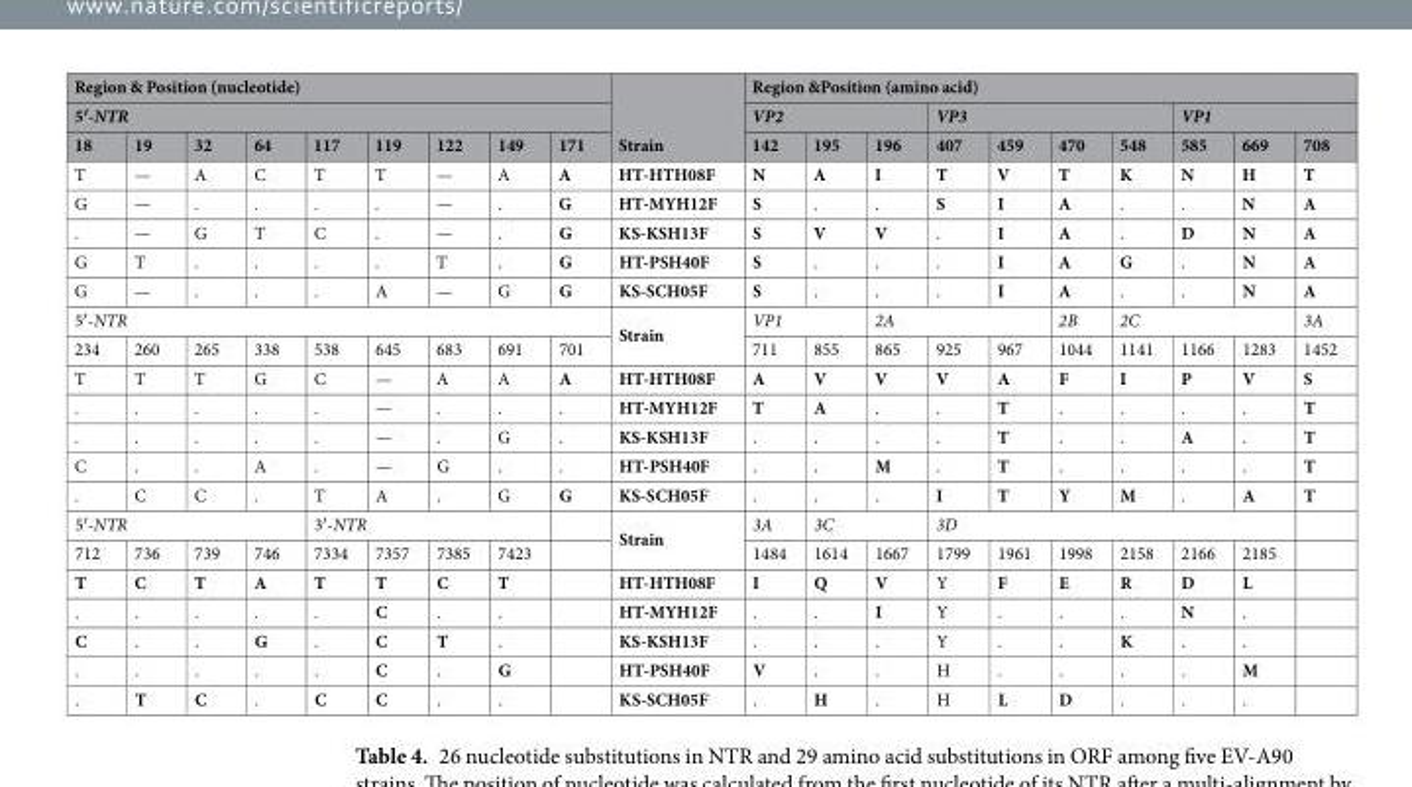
<table><thead><tr><td rowspan="2" colspan="9">Region &amp; Position (nucleotide) 5′-NTR</td><td rowspan="3">Strain</td><td colspan="10">Region &amp;Position (amino acid)</td></tr><tr><td colspan="3">VP2</td><td colspan="4">VP3</td><td colspan="3">VP1</td></tr><tr><td>18</td><td>19</td><td>32</td><td>64</td><td>117</td><td>119</td><td>122</td><td>149</td><td>171</td><td>142</td><td>195</td><td>196</td><td>407</td><td>459</td><td>470</td><td>548</td><td>585</td><td>669</td><td>708</td></tr></thead><tbody><tr><td>T</td><td>—</td><td>A</td><td>C</td><td>T</td><td>T</td><td>—</td><td>A</td><td>A</td><td>HT-HTH08F</td><td>N</td><td>A</td><td>I</td><td>T</td><td>V</td><td>T</td><td>K</td><td>N</td><td>H</td><td>T</td></tr><tr><td>G</td><td>—</td><td>.</td><td>.</td><td>.</td><td>.</td><td>—</td><td>.</td><td>G</td><td>HT-MYH12F</td><td>S</td><td>.</td><td>.</td><td>S</td><td>I</td><td>A</td><td>.</td><td>.</td><td>N</td><td>A</td></tr><tr><td>.</td><td>—</td><td>G</td><td>T</td><td>C</td><td>.</td><td>—</td><td>.</td><td>G</td><td>KS-KSH13F</td><td>S</td><td>V</td><td>V</td><td>.</td><td>I</td><td>A</td><td>.</td><td>D</td><td>N</td><td>A</td></tr><tr><td>G</td><td>T</td><td>.</td><td>.</td><td>.</td><td>.</td><td>T</td><td>.</td><td>G</td><td>HT-PSH40F</td><td>S</td><td>.</td><td>.</td><td>.</td><td>I</td><td>A</td><td>G</td><td>.</td><td>N</td><td>A</td></tr><tr><td>G</td><td>—</td><td>.</td><td>.</td><td>.</td><td>A</td><td>—</td><td>G</td><td>G</td><td>KS-SCH05F</td><td>S</td><td>.</td><td>.</td><td>.</td><td>I</td><td>A</td><td>.</td><td>.</td><td>N</td><td>A</td></tr><tr><td colspan="9">5′-NTR</td><td rowspan="2">Strain</td><td colspan="2">VP1</td><td colspan="3">2A</td><td>2B</td><td colspan="3">2C</td><td>3A</td></tr><tr><td>234</td><td>260</td><td>265</td><td>338</td><td>538</td><td>645</td><td>683</td><td>691</td><td>701</td><td>711</td><td>855</td><td>865</td><td>925</td><td>967</td><td>1044</td><td>1141</td><td>1166</td><td>1283</td><td>1452</td></tr><tr><td>T</td><td>T</td><td>T</td><td>G</td><td>C</td><td>—</td><td>A</td><td>A</td><td>A</td><td>HT-HTH08F</td><td>A</td><td>V</td><td>V</td><td>V</td><td>A</td><td>F</td><td>I</td><td>P</td><td>V</td><td>S</td></tr><tr><td>.</td><td>.</td><td>.</td><td>.</td><td>.</td><td>—</td><td>.</td><td>.</td><td>.</td><td>HT-MYH12F</td><td>T</td><td>A</td><td>.</td><td>.</td><td>T</td><td>.</td><td>.</td><td>.</td><td>.</td><td>T</td></tr><tr><td>.</td><td>.</td><td>.</td><td>.</td><td>.</td><td>—</td><td>.</td><td>G</td><td>.</td><td>KS-KSH13F</td><td>.</td><td>.</td><td>.</td><td>.</td><td>T</td><td>.</td><td>.</td><td>A</td><td>.</td><td>T</td></tr><tr><td>C</td><td>.</td><td>.</td><td>A</td><td>.</td><td>—</td><td>G</td><td>.</td><td>.</td><td>HT-PSH40F</td><td>.</td><td>.</td><td>M</td><td>.</td><td>T</td><td>.</td><td>.</td><td>.</td><td>.</td><td>T</td></tr><tr><td>.</td><td>C</td><td>C</td><td>.</td><td>T</td><td>A</td><td>.</td><td>G</td><td>G</td><td>KS-SCH05F</td><td>.</td><td>.</td><td>.</td><td>I</td><td>T</td><td>Y</td><td>M</td><td>.</td><td>A</td><td>T</td></tr><tr><td colspan="4">5′-NTR</td><td colspan="4">3′-NTR</td><td></td><td rowspan="2">Strain</td><td>3A</td><td colspan="2">3C</td><td colspan="6">3D</td><td></td></tr><tr><td>712</td><td>736</td><td>739</td><td>746</td><td>7334</td><td>7357</td><td>7385</td><td>7423</td><td></td><td>1484</td><td>1614</td><td>1667</td><td>1799</td><td>1961</td><td>1998</td><td>2158</td><td>2166</td><td>2185</td><td></td></tr><tr><td>T</td><td>C</td><td>T</td><td>A</td><td>T</td><td>T</td><td>C</td><td>T</td><td></td><td>HT-HTH08F</td><td>I</td><td>Q</td><td>V</td><td>Y</td><td>F</td><td>E</td><td>R</td><td>D</td><td>L</td><td></td></tr><tr><td>.</td><td>.</td><td>.</td><td>.</td><td>.</td><td>C</td><td>.</td><td>.</td><td></td><td>HT-MYH12F</td><td>.</td><td>.</td><td>I</td><td>Y</td><td>.</td><td>.</td><td>.</td><td>N</td><td>.</td><td></td></tr><tr><td>C</td><td>.</td><td>.</td><td>G</td><td>.</td><td>C</td><td>T</td><td>.</td><td></td><td>KS-KSH13F</td><td>.</td><td>.</td><td>.</td><td>Y</td><td>.</td><td>.</td><td>K</td><td>.</td><td>.</td><td></td></tr><tr><td>.</td><td>.</td><td>.</td><td>.</td><td>.</td><td>C</td><td>.</td><td>G</td><td></td><td>HT-PSH40F</td><td>V</td><td>.</td><td>.</td><td>H</td><td>.</td><td>.</td><td>.</td><td>.</td><td>M</td><td></td></tr><tr><td>.</td><td>T</td><td>C</td><td>.</td><td>C</td><td>C</td><td>.</td><td>.</td><td></td><td>KS-SCH05F</td><td>.</td><td>H</td><td>.</td><td>H</td><td>L</td><td>D</td><td>.</td><td>.</td><td>.</td><td></td></tr></tbody></table>